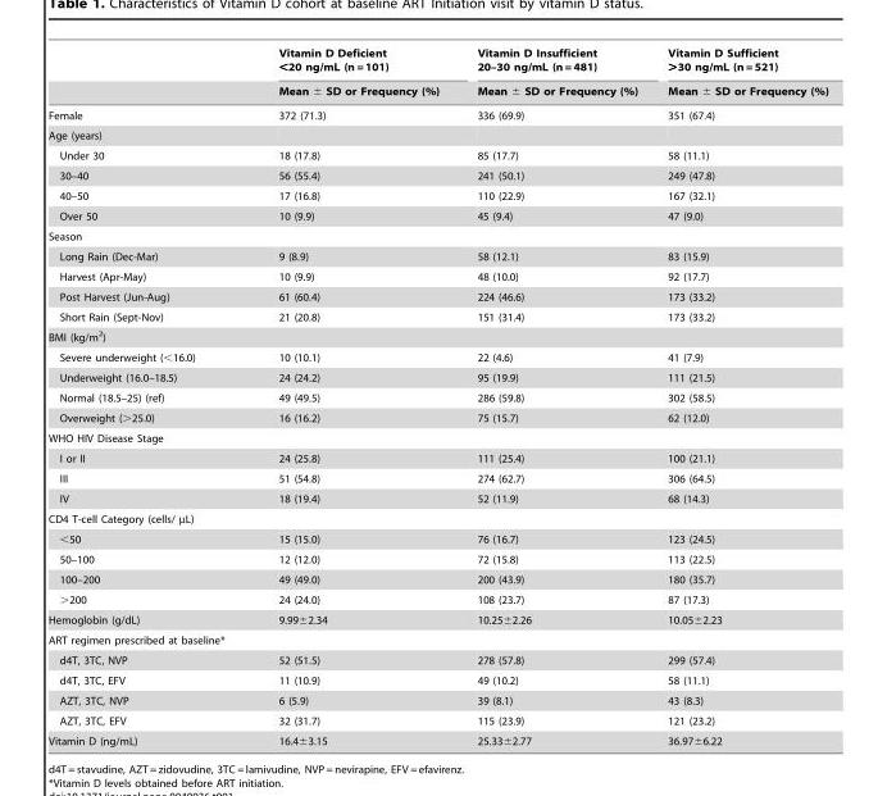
<table><thead><tr><td rowspan="2"></td><td rowspan="2">Vitamin D Deficient &lt;20 ng/mL (n = 101) Mean ± SD or Frequency (%)</td><td rowspan="2">Vitamin D Insufficient 20–30 ng/mL (n = 481) Mean ± SD or Frequency (%)</td><td rowspan="2">Vitamin D Sufficient &gt;30 ng/mL (n = 521) Mean ± SD or Frequency (%)</td></tr><tr></tr></thead><tbody><tr><td>Female</td><td>372 (71.3)</td><td>336 (69.9)</td><td>351 (67.4)</td></tr><tr><td colspan="4">Age (years)</td></tr><tr><td>Under 30</td><td>18 (17.8)</td><td>85 (17.7)</td><td>58 (11.1)</td></tr><tr><td>30–40</td><td>56 (55.4)</td><td>241 (50.1)</td><td>249 (47.8)</td></tr><tr><td>40–50</td><td>17 (16.8)</td><td>110 (22.9)</td><td>167 (32.1)</td></tr><tr><td>Over 50</td><td>10 (9.9)</td><td>45 (9.4)</td><td>47 (9.0)</td></tr><tr><td colspan="4">Season</td></tr><tr><td>Long Rain (Dec-Mar)</td><td>9 (8.9)</td><td>58 (12.1)</td><td>83 (15.9)</td></tr><tr><td>Harvest (Apr-May)</td><td>10 (9.9)</td><td>48 (10.0)</td><td>92 (17.7)</td></tr><tr><td>Post Harvest (Jun-Aug)</td><td>61 (60.4)</td><td>224 (46.6)</td><td>173 (33.2)</td></tr><tr><td>Short Rain (Sept-Nov)</td><td>21 (20.8)</td><td>151 (31.4)</td><td>173 (33.2)</td></tr><tr><td colspan="4">BMI (kg/m<sup>2</sup>)</td></tr><tr><td>Severe underweight (&lt;16.0)</td><td>10 (10.1)</td><td>22 (4.6)</td><td>41 (7.9)</td></tr><tr><td>Underweight (16.0–18.5)</td><td>24 (24.2)</td><td>95 (19.9)</td><td>111 (21.5)</td></tr><tr><td>Normal (18.5–25) (ref)</td><td>49 (49.5)</td><td>286 (59.8)</td><td>302 (58.5)</td></tr><tr><td>Overweight (&gt;25.0)</td><td>16 (16.2)</td><td>75 (15.7)</td><td>62 (12.0)</td></tr><tr><td colspan="4">WHO HIV Disease Stage</td></tr><tr><td>I or II</td><td>24 (25.8)</td><td>111 (25.4)</td><td>100 (21.1)</td></tr><tr><td>III</td><td>51 (54.8)</td><td>274 (62.7)</td><td>306 (64.5)</td></tr><tr><td>IV</td><td>18 (19.4)</td><td>52 (11.9)</td><td>68 (14.3)</td></tr><tr><td colspan="4">CD4 T-cell Category (cells/ µL)</td></tr><tr><td>&lt;50</td><td>15 (15.0)</td><td>76 (16.7)</td><td>123 (24.5)</td></tr><tr><td>50–100</td><td>12 (12.0)</td><td>72 (15.8)</td><td>113 (22.5)</td></tr><tr><td>100–200</td><td>49 (49.0)</td><td>200 (43.9)</td><td>180 (35.7)</td></tr><tr><td>&gt;200</td><td>24 (24.0)</td><td>108 (23.7)</td><td>87 (17.3)</td></tr><tr><td>Hemoglobin (g/dL)</td><td>9.99±2.34</td><td>10.25±2.26</td><td>10.05±2.23</td></tr><tr><td colspan="4">ART regimen prescribed at baseline*</td></tr><tr><td>d4T, 3TC, NVP</td><td>52 (51.5)</td><td>278 (57.8)</td><td>299 (57.4)</td></tr><tr><td>d4T, 3TC, EFV</td><td>11 (10.9)</td><td>49 (10.2)</td><td>58 (11.1)</td></tr><tr><td>AZT, 3TC, NVP</td><td>6 (5.9)</td><td>39 (8.1)</td><td>43 (8.3)</td></tr><tr><td>AZT, 3TC, EFV</td><td>32 (31.7)</td><td>115 (23.9)</td><td>121 (23.2)</td></tr><tr><td>Vitamin D (ng/mL)</td><td>16.4±3.15</td><td>25.33±2.77</td><td>36.97±6.22</td></tr></tbody></table>